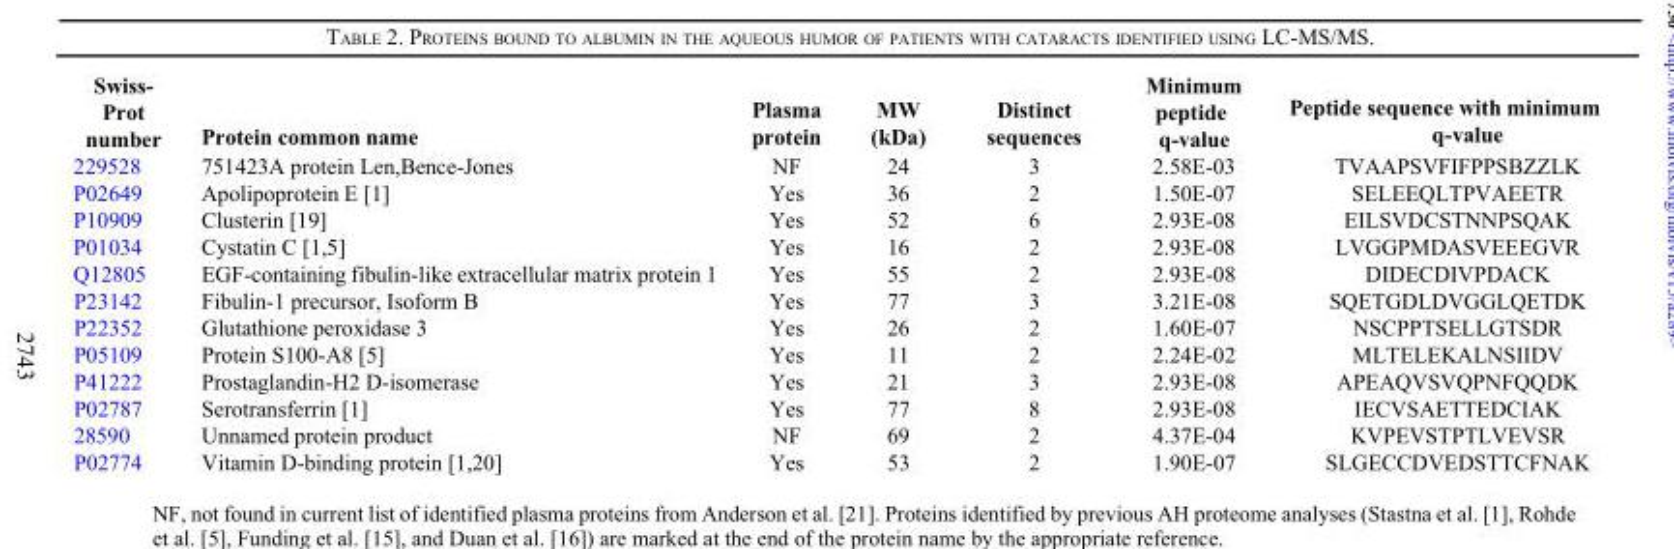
<table><thead><tr><td>Swiss- Prot number</td><td>Protein common name</td><td>Plasma protein</td><td>MW (kDa)</td><td>Distinct sequences</td><td>Minimum peptide q-value</td><td>Peptide sequence with minimum q-value</td></tr></thead><tbody><tr><td>229528</td><td>751423A protein Len,Bence-Jones</td><td>NF</td><td>24</td><td>3</td><td>2.58E-03</td><td>TVAAPSVFIFPPSBZZLK</td></tr><tr><td>P02649</td><td>Apolipoprotein E [1]</td><td>Yes</td><td>36</td><td>2</td><td>1.50E-07</td><td>SELEEQLTPVAEETR</td></tr><tr><td>P10909</td><td>Clusterin [19]</td><td>Yes</td><td>52</td><td>6</td><td>2.93E-08</td><td>EILSVDCSTNNPSQAK</td></tr><tr><td>P01034</td><td>Cystatin C [1,5]</td><td>Yes</td><td>16</td><td>2</td><td>2.93E-08</td><td>LVGGPMDASVEEEGVR</td></tr><tr><td>Q12805</td><td>EGF-containing fibulin-like extracellular matrix protein 1</td><td>Yes</td><td>55</td><td>2</td><td>2.93E-08</td><td>DIDECDIVPDACK</td></tr><tr><td>P23142</td><td>Fibulin-1 precursor, Isoform B</td><td>Yes</td><td>77</td><td>3</td><td>3.21E-08</td><td>SQETGDLDVGGLQETDK</td></tr><tr><td>P22352</td><td>Glutathione peroxidase 3</td><td>Yes</td><td>26</td><td>2</td><td>1.60E-07</td><td>NSCPPTSELLGTSDR</td></tr><tr><td>P05109</td><td>Protein S100-A8 [5]</td><td>Yes</td><td>11</td><td>2</td><td>2.24E-02</td><td>MLTELEKALNSIIDV</td></tr><tr><td>P41222</td><td>Prostaglandin-H2 D-isomerase</td><td>Yes</td><td>21</td><td>3</td><td>2.93E-08</td><td>APEAQVSVQPNFQQDK</td></tr><tr><td>P02787</td><td>Serotransferrin [1]</td><td>Yes</td><td>77</td><td>8</td><td>2.93E-08</td><td>IECVSAETTEDCIAK</td></tr><tr><td>28590</td><td>Unnamed protein product</td><td>NF</td><td>69</td><td>2</td><td>4.37E-04</td><td>KVPEVSTPTLVEVSR</td></tr><tr><td>P02774</td><td>Vitamin D-binding protein [1,20]</td><td>Yes</td><td>53</td><td>2</td><td>1.90E-07</td><td>SLGECCDVEDSTTCFNAK</td></tr></tbody></table>